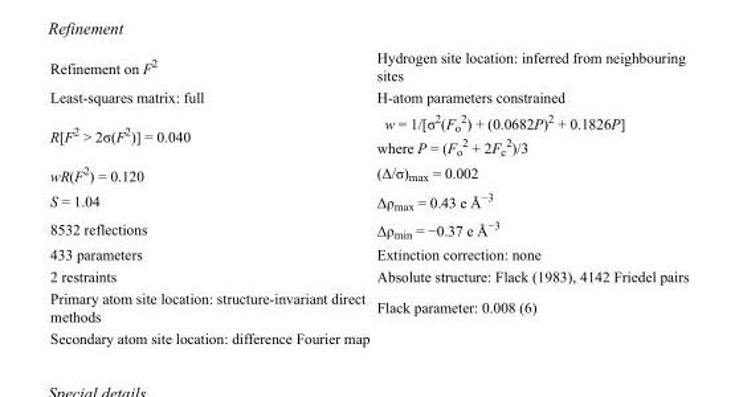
<table><tbody><tr><td>Refinement on F<sup>2</sup></td><td>Hydrogen site location: inferred from neighbouring sites</td></tr><tr><td>Least-squares matrix: full</td><td>H-atom parameters constrained</td></tr><tr><td>R[F<sup>2</sup> &gt; 2σ(F<sup>2</sup>)] = 0.040</td><td>w = 1/[σ<sup>2</sup>(F<sub>o</sub> <sup>2</sup>) + (0.0682P)<sup>2</sup> + 0.1826P] where P = (F<sub>o</sub> <sup>2</sup> + 2F<sub>c</sub> <sup>2</sup>)/3</td></tr><tr><td>wR(F<sup>2</sup>) = 0.120</td><td>(Δ/σ)<sub>max</sub> = 0.002</td></tr><tr><td>S = 1.04</td><td>Δρ<sub>max</sub> = 0.43 e Å<sup>−3</sup></td></tr><tr><td>8532 reflections</td><td>Δρ<sub>min</sub> = −0.37 e Å<sup>−3</sup></td></tr><tr><td>433 parameters</td><td>Extinction correction: none</td></tr><tr><td>2 restraints</td><td>Absolute structure: Flack (1983), 4142 Friedel pairs</td></tr><tr><td>Primary atom site location: structure-invariant direct methods</td><td>Flack parameter: 0.008 (6)</td></tr><tr><td>Secondary atom site location: difference Fourier map</td><td></td></tr></tbody></table>